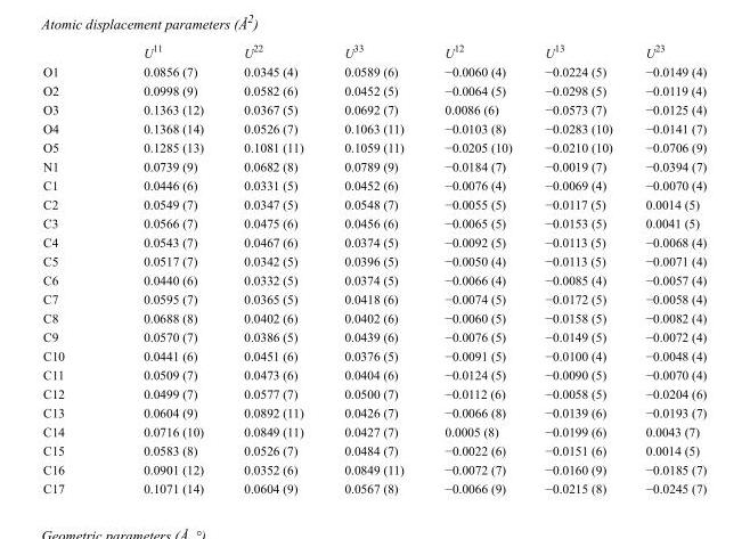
<table><thead><tr><td></td><td>U<sup>11</sup></td><td>U<sup>22</sup></td><td>U<sup>33</sup></td><td>U<sup>12</sup></td><td>U<sup>13</sup></td><td>U<sup>23</sup></td></tr></thead><tbody><tr><td>O1</td><td>0.0856 (7)</td><td>0.0345 (4)</td><td>0.0589 (6)</td><td>−0.0060 (4)</td><td>−0.0224 (5)</td><td>−0.0149 (4)</td></tr><tr><td>O2</td><td>0.0998 (9)</td><td>0.0582 (6)</td><td>0.0452 (5)</td><td>−0.0064 (5)</td><td>−0.0298 (5)</td><td>−0.0119 (4)</td></tr><tr><td>O3</td><td>0.1363 (12)</td><td>0.0367 (5)</td><td>0.0692 (7)</td><td>0.0086 (6)</td><td>−0.0573 (7)</td><td>−0.0125 (4)</td></tr><tr><td>O4</td><td>0.1368 (14)</td><td>0.0526 (7)</td><td>0.1063 (11)</td><td>−0.0103 (8)</td><td>−0.0283 (10)</td><td>−0.0141 (7)</td></tr><tr><td>O5</td><td>0.1285 (13)</td><td>0.1081 (11)</td><td>0.1059 (11)</td><td>−0.0205 (10)</td><td>−0.0210 (10)</td><td>−0.0706 (9)</td></tr><tr><td>N1</td><td>0.0739 (9)</td><td>0.0682 (8)</td><td>0.0789 (9)</td><td>−0.0184 (7)</td><td>−0.0019 (7)</td><td>−0.0394 (7)</td></tr><tr><td>C1</td><td>0.0446 (6)</td><td>0.0331 (5)</td><td>0.0452 (6)</td><td>−0.0076 (4)</td><td>−0.0069 (4)</td><td>−0.0070 (4)</td></tr><tr><td>C2</td><td>0.0549 (7)</td><td>0.0347 (5)</td><td>0.0548 (7)</td><td>−0.0055 (5)</td><td>−0.0117 (5)</td><td>0.0014 (5)</td></tr><tr><td>C3</td><td>0.0566 (7)</td><td>0.0475 (6)</td><td>0.0456 (6)</td><td>−0.0065 (5)</td><td>−0.0153 (5)</td><td>0.0041 (5)</td></tr><tr><td>C4</td><td>0.0543 (7)</td><td>0.0467 (6)</td><td>0.0374 (5)</td><td>−0.0092 (5)</td><td>−0.0113 (5)</td><td>−0.0068 (4)</td></tr><tr><td>C5</td><td>0.0517 (7)</td><td>0.0342 (5)</td><td>0.0396 (5)</td><td>−0.0050 (4)</td><td>−0.0113 (5)</td><td>−0.0071 (4)</td></tr><tr><td>C6</td><td>0.0440 (6)</td><td>0.0332 (5)</td><td>0.0374 (5)</td><td>−0.0066 (4)</td><td>−0.0085 (4)</td><td>−0.0057 (4)</td></tr><tr><td>C7</td><td>0.0595 (7)</td><td>0.0365 (5)</td><td>0.0418 (6)</td><td>−0.0074 (5)</td><td>−0.0172 (5)</td><td>−0.0058 (4)</td></tr><tr><td>C8</td><td>0.0688 (8)</td><td>0.0402 (6)</td><td>0.0402 (6)</td><td>−0.0060 (5)</td><td>−0.0158 (5)</td><td>−0.0082 (4)</td></tr><tr><td>C9</td><td>0.0570 (7)</td><td>0.0386 (5)</td><td>0.0439 (6)</td><td>−0.0076 (5)</td><td>−0.0149 (5)</td><td>−0.0072 (4)</td></tr><tr><td>C10</td><td>0.0441 (6)</td><td>0.0451 (6)</td><td>0.0376 (5)</td><td>−0.0091 (5)</td><td>−0.0100 (4)</td><td>−0.0048 (4)</td></tr><tr><td>C11</td><td>0.0509 (7)</td><td>0.0473 (6)</td><td>0.0404 (6)</td><td>−0.0124 (5)</td><td>−0.0090 (5)</td><td>−0.0070 (4)</td></tr><tr><td>C12</td><td>0.0499 (7)</td><td>0.0577 (7)</td><td>0.0500 (7)</td><td>−0.0112 (6)</td><td>−0.0058 (5)</td><td>−0.0204 (6)</td></tr><tr><td>C13</td><td>0.0604 (9)</td><td>0.0892 (11)</td><td>0.0426 (7)</td><td>−0.0066 (8)</td><td>−0.0139 (6)</td><td>−0.0193 (7)</td></tr><tr><td>C14</td><td>0.0716 (10)</td><td>0.0849 (11)</td><td>0.0427 (7)</td><td>0.0005 (8)</td><td>−0.0199 (6)</td><td>0.0043 (7)</td></tr><tr><td>C15</td><td>0.0583 (8)</td><td>0.0526 (7)</td><td>0.0484 (7)</td><td>−0.0022 (6)</td><td>−0.0151 (6)</td><td>0.0014 (5)</td></tr><tr><td>C16</td><td>0.0901 (12)</td><td>0.0352 (6)</td><td>0.0849 (11)</td><td>−0.0072 (7)</td><td>−0.0160 (9)</td><td>−0.0185 (7)</td></tr><tr><td>C17</td><td>0.1071 (14)</td><td>0.0604 (9)</td><td>0.0567 (8)</td><td>−0.0066 (9)</td><td>−0.0215 (8)</td><td>−0.0245 (7)</td></tr></tbody></table>